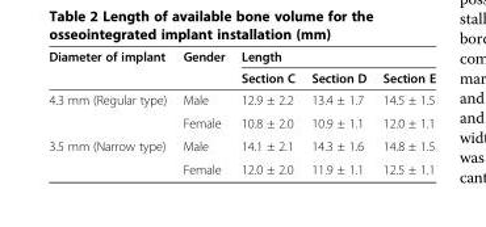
<table><thead><tr><td rowspan="2">Diameter of implant</td><td rowspan="2">Gender</td><td colspan="3">Length</td></tr><tr><td>Section C</td><td>Section D</td><td>Section E</td></tr></thead><tbody><tr><td rowspan="2">4.3 mm (Regular type)</td><td>Male</td><td>12.9 ± 2.2</td><td>13.4 ± 1.7</td><td>14.5 ± 1.5</td></tr><tr><td>Female</td><td>10.8 ± 2.0</td><td>10.9 ± 1.1</td><td>12.0 ± 1.1</td></tr><tr><td rowspan="2">3.5 mm (Narrow type)</td><td>Male</td><td>14.1 ± 2.1</td><td>14.3 ± 1.6</td><td>14.8 ± 1.5</td></tr><tr><td>Female</td><td>12.0 ± 2.0</td><td>11.9 ± 1.1</td><td>12.5 ± 1.1</td></tr></tbody></table>